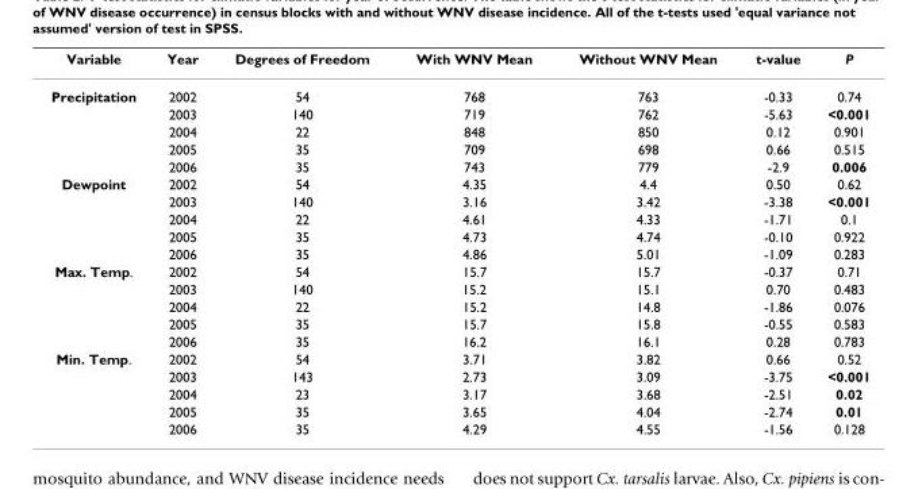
<table><thead><tr><td>Variable</td><td>Year</td><td>Degrees of Freedom</td><td>With WNV Mean</td><td>Without WNV Mean</td><td>t-value</td><td>P</td></tr></thead><tbody><tr><td rowspan="5">Precipitation</td><td>2002</td><td>54</td><td>768</td><td>763</td><td>-0.33</td><td>0.74</td></tr><tr><td>2003</td><td>140</td><td>719</td><td>762</td><td>-5.63</td><td>&lt;0.001</td></tr><tr><td>2004</td><td>22</td><td>848</td><td>850</td><td>0.12</td><td>0.901</td></tr><tr><td>2005</td><td>35</td><td>709</td><td>698</td><td>0.66</td><td>0.515</td></tr><tr><td>2006</td><td>35</td><td>743</td><td>779</td><td>-2.9</td><td>0.006</td></tr><tr><td rowspan="5">Dewpoint</td><td>2002</td><td>54</td><td>4.35</td><td>4.4</td><td>0.50</td><td>0.62</td></tr><tr><td>2003</td><td>140</td><td>3.16</td><td>3.42</td><td>-3.38</td><td>&lt;0.001</td></tr><tr><td>2004</td><td>22</td><td>4.61</td><td>4.33</td><td>-1.71</td><td>0.1</td></tr><tr><td>2005</td><td>35</td><td>4.73</td><td>4.74</td><td>-0.10</td><td>0.922</td></tr><tr><td>2006</td><td>35</td><td>4.86</td><td>5.01</td><td>-1.09</td><td>0.283</td></tr><tr><td rowspan="5">Max. Temp.</td><td>2002</td><td>54</td><td>15.7</td><td>15.7</td><td>-0.37</td><td>0.71</td></tr><tr><td>2003</td><td>140</td><td>15.2</td><td>15.1</td><td>0.70</td><td>0.483</td></tr><tr><td>2004</td><td>22</td><td>15.2</td><td>14.8</td><td>-1.86</td><td>0.076</td></tr><tr><td>2005</td><td>35</td><td>15.7</td><td>15.8</td><td>-0.55</td><td>0.583</td></tr><tr><td>2006</td><td>35</td><td>16.2</td><td>16.1</td><td>0.28</td><td>0.783</td></tr><tr><td rowspan="5">Min. Temp.</td><td>2002</td><td>54</td><td>3.71</td><td>3.82</td><td>0.66</td><td>0.52</td></tr><tr><td>2003</td><td>143</td><td>2.73</td><td>3.09</td><td>-3.75</td><td>&lt;0.001</td></tr><tr><td>2004</td><td>23</td><td>3.17</td><td>3.68</td><td>-2.51</td><td>0.02</td></tr><tr><td>2005</td><td>35</td><td>3.65</td><td>4.04</td><td>-2.74</td><td>0.01</td></tr><tr><td>2006</td><td>35</td><td>4.29</td><td>4.55</td><td>-1.56</td><td>0.128</td></tr></tbody></table>